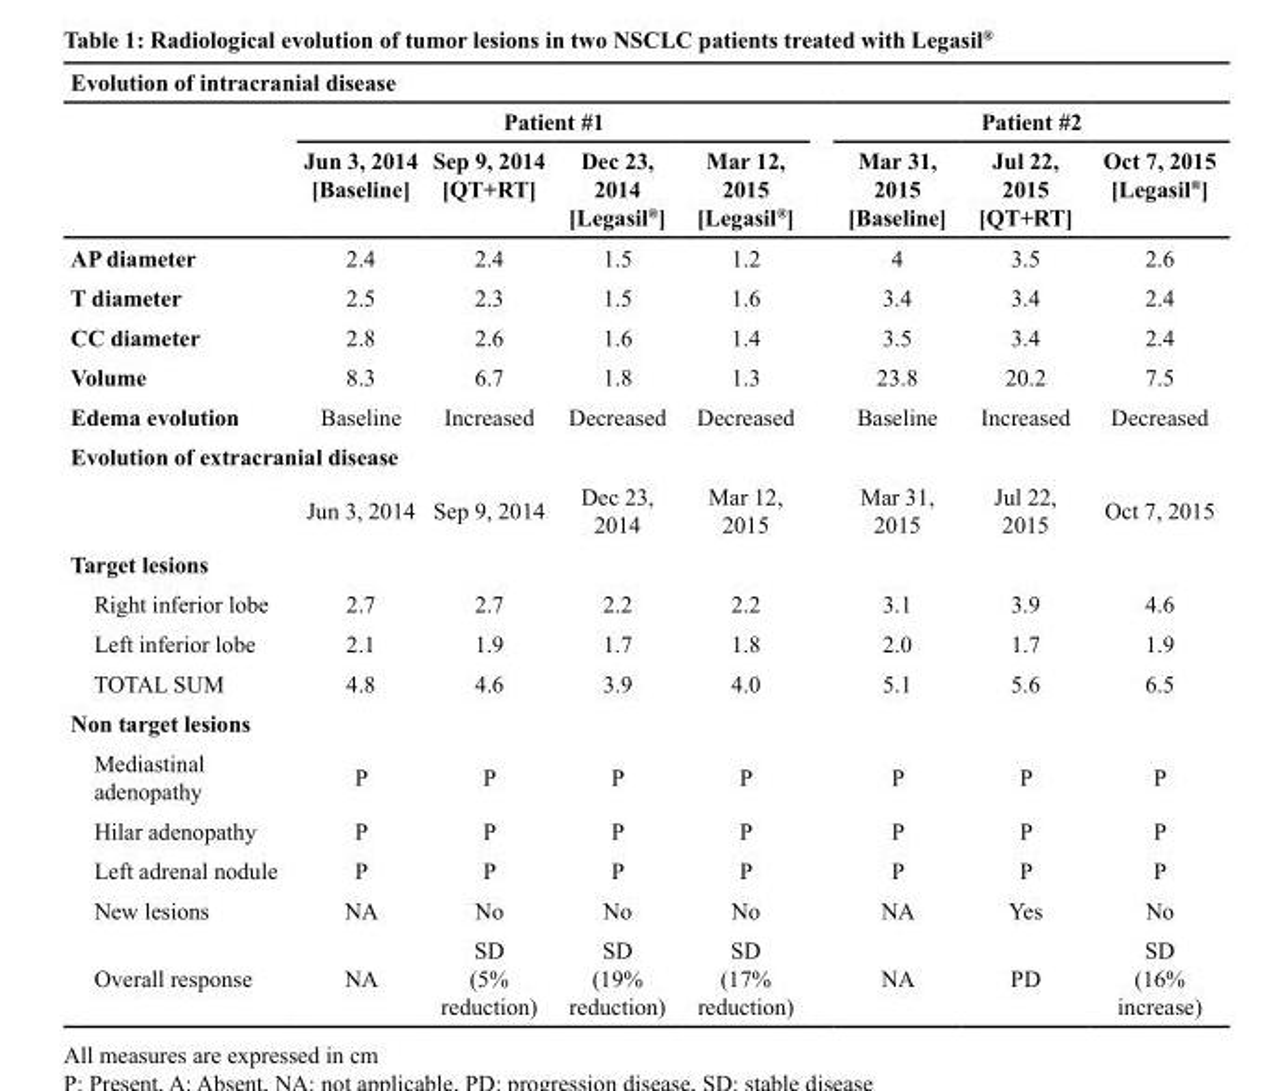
<table><thead><tr><td colspan="8">Evolution of intracranial disease</td></tr><tr><td rowspan="2"></td><td colspan="4">Patient #1</td><td colspan="3">Patient #2</td></tr><tr><td>Jun 3, 2014 [Baseline]</td><td>Sep 9, 2014 [QT+RT]</td><td>Dec 23, 2014 [Legasil<sup>®</sup>]</td><td>Mar 12, 2015 [Legasil<sup>®</sup>]</td><td>Mar 31, 2015 [Baseline]</td><td>Jul 22, 2015 [QT+RT]</td><td>Oct 7, 2015 [Legasil<sup>®</sup>]</td></tr></thead><tbody><tr><td>AP diameter</td><td>2.4</td><td>2.4</td><td>1.5</td><td>1.2</td><td>4</td><td>3.5</td><td>2.6</td></tr><tr><td>T diameter</td><td>2.5</td><td>2.3</td><td>1.5</td><td>1.6</td><td>3.4</td><td>3.4</td><td>2.4</td></tr><tr><td>CC diameter</td><td>2.8</td><td>2.6</td><td>1.6</td><td>1.4</td><td>3.5</td><td>3.4</td><td>2.4</td></tr><tr><td>Volume</td><td>8.3</td><td>6.7</td><td>1.8</td><td>1.3</td><td>23.8</td><td>20.2</td><td>7.5</td></tr><tr><td>Edema evolution</td><td>Baseline</td><td>Increased</td><td>Decreased</td><td>Decreased</td><td>Baseline</td><td>Increased</td><td>Decreased</td></tr><tr><td colspan="8">Evolution of extracranial disease</td></tr><tr><td></td><td>Jun 3, 2014</td><td>Sep 9, 2014</td><td>Dec 23, 2014</td><td>Mar 12, 2015</td><td>Mar 31, 2015</td><td>Jul 22, 2015</td><td>Oct 7, 2015</td></tr><tr><td colspan="8">Target lesions</td></tr><tr><td>Right inferior lobe</td><td>2.7</td><td>2.7</td><td>2.2</td><td>2.2</td><td>3.1</td><td>3.9</td><td>4.6</td></tr><tr><td>Left inferior lobe</td><td>2.1</td><td>1.9</td><td>1.7</td><td>1.8</td><td>2.0</td><td>1.7</td><td>1.9</td></tr><tr><td>TOTAL SUM</td><td>4.8</td><td>4.6</td><td>3.9</td><td>4.0</td><td>5.1</td><td>5.6</td><td>6.5</td></tr><tr><td colspan="8">Non target lesions</td></tr><tr><td>Mediastinal adenopathy</td><td>P</td><td>P</td><td>P</td><td>P</td><td>P</td><td>P</td><td>P</td></tr><tr><td>Hilar adenopathy</td><td>P</td><td>P</td><td>P</td><td>P</td><td>P</td><td>P</td><td>P</td></tr><tr><td>Left adrenal nodule</td><td>P</td><td>P</td><td>P</td><td>P</td><td>P</td><td>P</td><td>P</td></tr><tr><td>New lesions</td><td>NA</td><td>No</td><td>No</td><td>No</td><td>NA</td><td>Yes</td><td>No</td></tr><tr><td>Overall response</td><td>NA</td><td>SD (5% reduction)</td><td>SD (19% reduction)</td><td>SD (17% reduction)</td><td>NA</td><td>PD</td><td>SD (16% increase)</td></tr></tbody></table>